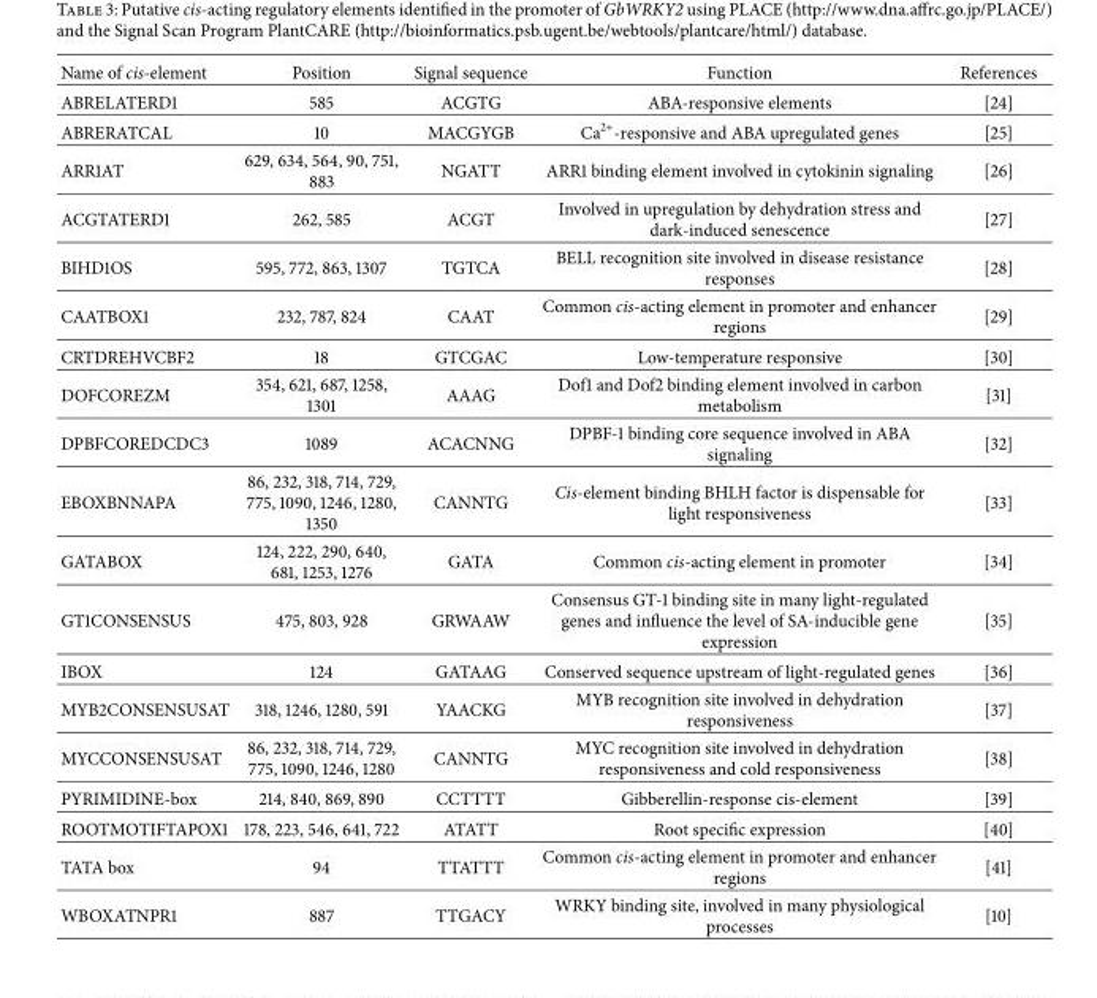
<table><thead><tr><td>Name of cis-element</td><td>Position</td><td>Signal sequence</td><td>Function</td><td>References</td></tr></thead><tbody><tr><td>ABRELATERD1</td><td>585</td><td>ACGTG</td><td>ABA-responsive elements</td><td>[24]</td></tr><tr><td>ABRERATCAL</td><td>10</td><td>MACGYGB</td><td>Ca<sup>2+</sup>-responsive and ABA upregulated genes</td><td>[25]</td></tr><tr><td>ARR1AT</td><td>629, 634, 564, 90, 751, 883</td><td>NGATT</td><td>ARR1 binding element involved in cytokinin signaling</td><td>[26]</td></tr><tr><td>ACGTATERD1</td><td>262, 585</td><td>ACGT</td><td>Involved in upregulation by dehydration stress and dark-induced senescence</td><td>[27]</td></tr><tr><td>BIHD1OS</td><td>595, 772, 863, 1307</td><td>TGTCA</td><td>BELL recognition site involved in disease resistance responses</td><td>[28]</td></tr><tr><td>CAATBOX1</td><td>232, 787, 824</td><td>CAAT</td><td>Common cis-acting element in promoter and enhancer regions</td><td>[29]</td></tr><tr><td>CRTDREHVCBF2</td><td>18</td><td>GTCGAC</td><td>Low-temperature responsive</td><td>[30]</td></tr><tr><td>DOFCOREZM</td><td>354, 621, 687, 1258, 1301</td><td>AAAG</td><td>Dof1 and Dof2 binding element involved in carbon metabolism</td><td>[31]</td></tr><tr><td>DPBFCOREDCDC3</td><td>1089</td><td>ACACNNG</td><td>DPBF-1 binding core sequence involved in ABA signaling</td><td>[32]</td></tr><tr><td>EBOXBNNAPA</td><td>86, 232, 318, 714, 729, 775, 1090, 1246, 1280, 1350</td><td>CANNTG</td><td>Cis-element binding BHLH factor is dispensable for light responsiveness</td><td>[33]</td></tr><tr><td>GATABOX</td><td>124, 222, 290, 640, 681, 1253, 1276</td><td>GATA</td><td>Common cis-acting element in promoter</td><td>[34]</td></tr><tr><td>GT1CONSENSUS</td><td>475, 803, 928</td><td>GRWAAW</td><td>Consensus GT-1 binding site in many light-regulated genes and influence the level of SA-inducible gene expression</td><td>[35]</td></tr><tr><td>IBOX</td><td>124</td><td>GATAAG</td><td>Conserved sequence upstream of light-regulated genes</td><td>[36]</td></tr><tr><td>MYB2CONSENSUSAT</td><td>318, 1246, 1280, 591</td><td>YAACKG</td><td>MYB recognition site involved in dehydration responsiveness</td><td>[37]</td></tr><tr><td>MYCCONSENSUSAT</td><td>86, 232, 318, 714, 729, 775, 1090, 1246, 1280</td><td>CANNTG</td><td>MYC recognition site involved in dehydration responsiveness and cold responsiveness</td><td>[38]</td></tr><tr><td>PYRIMIDINE-box</td><td>214, 840, 869, 890</td><td>CCTTTT</td><td>Gibberellin-response cis-element</td><td>[39]</td></tr><tr><td>ROOTMOTIFTAPOX1</td><td>178, 223, 546, 641, 722</td><td>ATATT</td><td>Root specific expression</td><td>[40]</td></tr><tr><td>TATA box</td><td>94</td><td>TTATTT</td><td>Common cis-acting element in promoter and enhancer regions</td><td>[41]</td></tr><tr><td>WBOXATNPR1</td><td>887</td><td>TTGACY</td><td>WRKY binding site, involved in many physiological processes</td><td>[10]</td></tr></tbody></table>